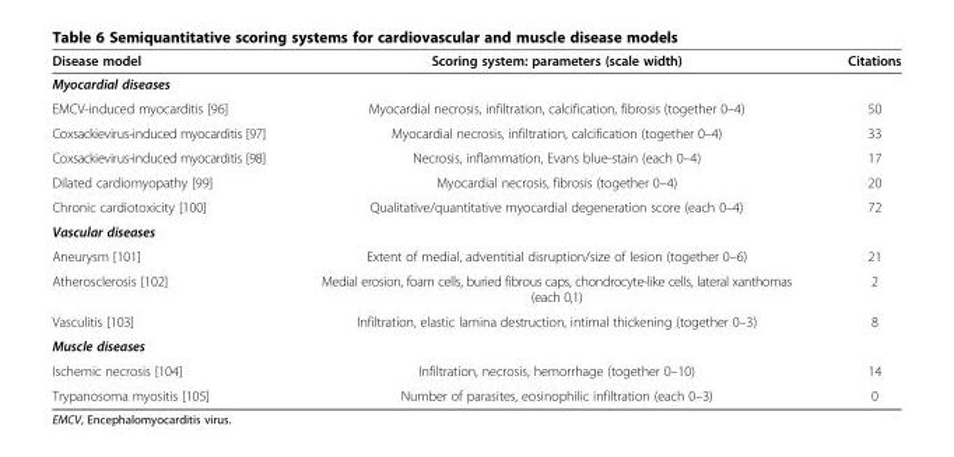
<table><thead><tr><td>Disease model</td><td>Scoring system: parameters (scale width)</td><td>Citations</td></tr></thead><tbody><tr><td colspan="3">Myocardial diseases</td></tr><tr><td>EMCV-induced myocarditis [96]</td><td>Myocardial necrosis, infiltration, calcification, fibrosis (together 0–4)</td><td>50</td></tr><tr><td>Coxsackievirus-induced myocarditis [97]</td><td>Myocardial necrosis, infiltration, calcification (together 0–4)</td><td>33</td></tr><tr><td>Coxsackievirus-induced myocarditis [98]</td><td>Necrosis, inflammation, Evans blue-stain (each 0–4)</td><td>17</td></tr><tr><td>Dilated cardiomyopathy [99]</td><td>Myocardial necrosis, fibrosis (together 0–4)</td><td>20</td></tr><tr><td>Chronic cardiotoxicity [100]</td><td>Qualitative/quantitative myocardial degeneration score (each 0–4)</td><td>72</td></tr><tr><td colspan="3">Vascular diseases</td></tr><tr><td>Aneurysm [101]</td><td>Extent of medial, adventitial disruption/size of lesion (together 0–6)</td><td>21</td></tr><tr><td>Atherosclerosis [102]</td><td>Medial erosion, foam cells, buried fibrous caps, chondrocyte-like cells, lateral xanthomas (each 0,1)</td><td>2</td></tr><tr><td>Vasculitis [103]</td><td>Infiltration, elastic lamina destruction, intimal thickening (together 0–3)</td><td>8</td></tr><tr><td colspan="3">Muscle diseases</td></tr><tr><td>Ischemic necrosis [104]</td><td>Infiltration, necrosis, hemorrhage (together 0–10)</td><td>14</td></tr><tr><td>Trypanosoma myositis [105]</td><td>Number of parasites, eosinophilic infiltration (each 0–3)</td><td>0</td></tr></tbody></table>